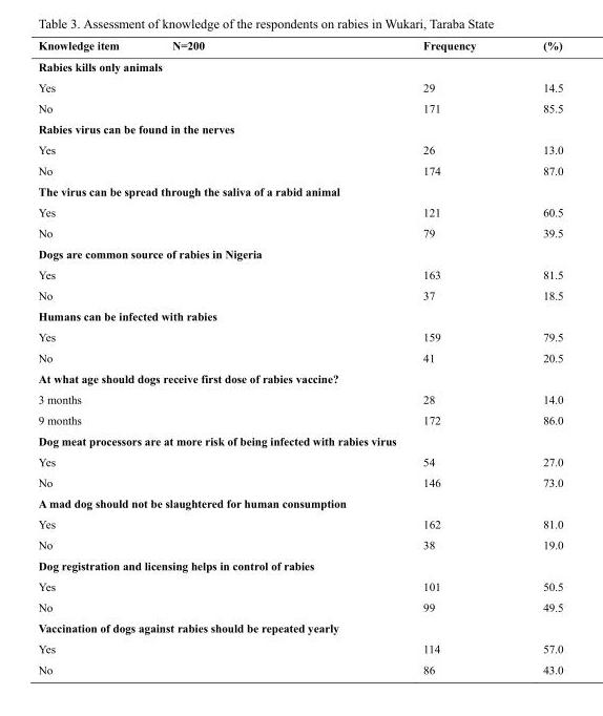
<table><thead><tr><td>Knowledge item N=200</td><td>Frequency</td><td>(%)</td></tr></thead><tbody><tr><td colspan="3">Rabies kills only animals</td></tr><tr><td>Yes</td><td>29</td><td>14.5</td></tr><tr><td>No</td><td>171</td><td>85.5</td></tr><tr><td colspan="3">Rabies virus can be found in the nerves</td></tr><tr><td>Yes</td><td>26</td><td>13.0</td></tr><tr><td>No</td><td>174</td><td>87.0</td></tr><tr><td colspan="3">The virus can be spread through the saliva of a rabid animal</td></tr><tr><td>Yes</td><td>121</td><td>60.5</td></tr><tr><td>No</td><td>79</td><td>39.5</td></tr><tr><td colspan="3">Dogs are common source of rabies in Nigeria</td></tr><tr><td>Yes</td><td>163</td><td>81.5</td></tr><tr><td>No</td><td>37</td><td>18.5</td></tr><tr><td colspan="3">Humans can be infected with rabies</td></tr><tr><td>Yes</td><td>159</td><td>79.5</td></tr><tr><td>No</td><td>41</td><td>20.5</td></tr><tr><td colspan="3">At what age should dogs receive first dose of rabies vaccine?</td></tr><tr><td>3 months</td><td>28</td><td>14.0</td></tr><tr><td>9 months</td><td>172</td><td>86.0</td></tr><tr><td colspan="3">Dog meat processors are at more risk of being infected with rabies virus</td></tr><tr><td>Yes</td><td>54</td><td>27.0</td></tr><tr><td>No</td><td>146</td><td>73.0</td></tr><tr><td colspan="3">A mad dog should not be slaughtered for human consumption</td></tr><tr><td>Yes</td><td>162</td><td>81.0</td></tr><tr><td>No</td><td>38</td><td>19.0</td></tr><tr><td colspan="3">Dog registration and licensing helps in control of rabies</td></tr><tr><td>Yes</td><td>101</td><td>50.5</td></tr><tr><td>No</td><td>99</td><td>49.5</td></tr><tr><td colspan="3">Vaccination of dogs against rabies should be repeated yearly</td></tr><tr><td>Yes</td><td>114</td><td>57.0</td></tr><tr><td>No</td><td>86</td><td>43.0</td></tr></tbody></table>